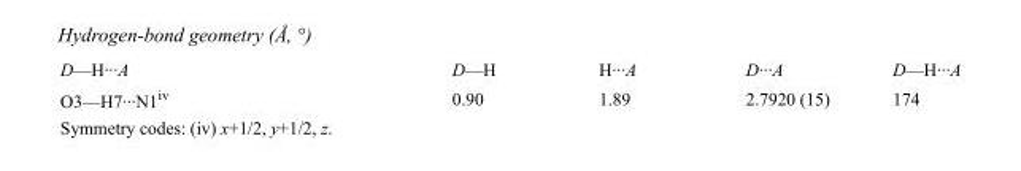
<table><tbody><tr><td>D—H···A</td><td>D—H</td><td>H···A</td><td>D···A</td><td>D—H···A</td></tr><tr><td>O3—H7···N1<sup>iv</sup></td><td>0.90</td><td>1.89</td><td>2.7920 (15)</td><td>174</td></tr></tbody></table>